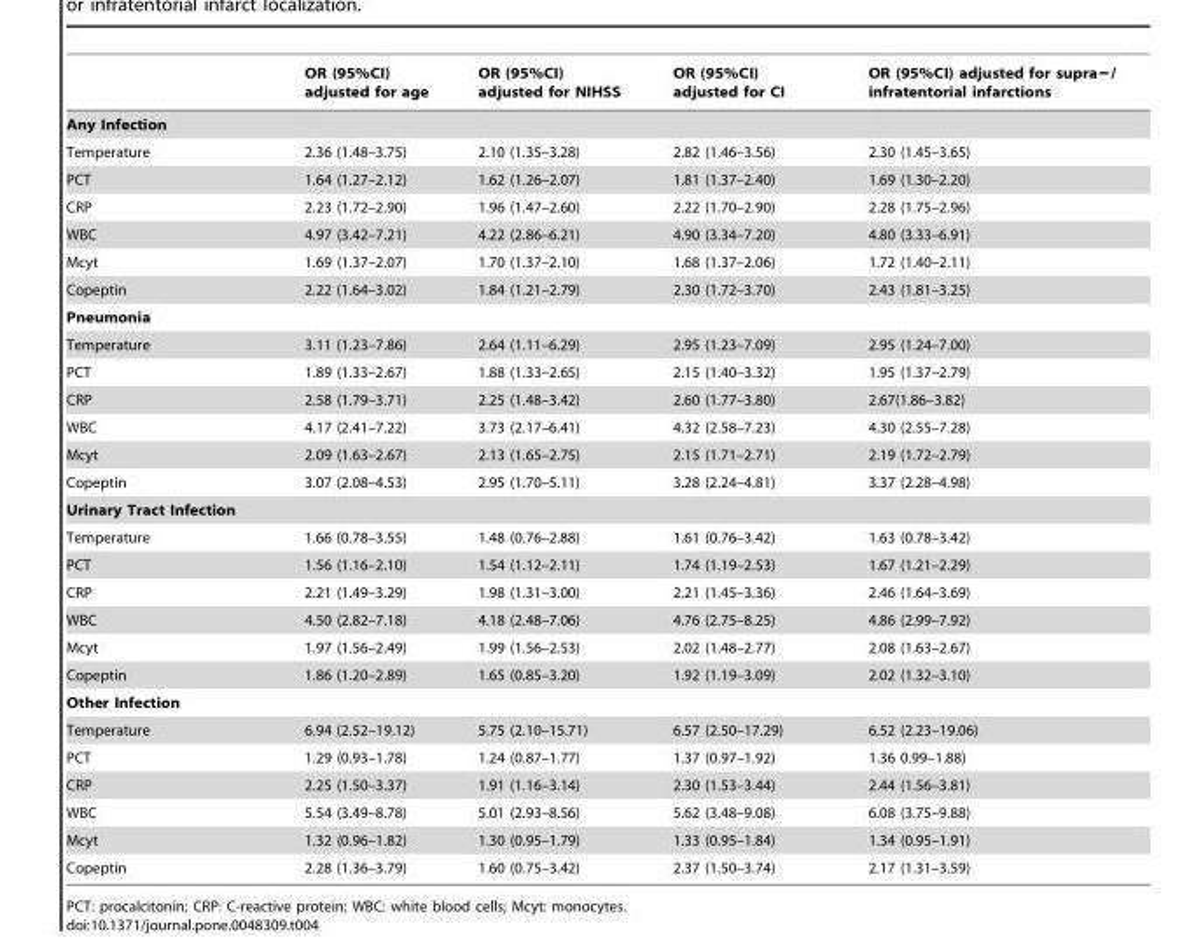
<table><thead><tr><td></td><td>OR (95%CI) adjusted for age</td><td>OR (95%CI) adjusted for NIHSS</td><td>OR (95%CI) adjusted for CI</td><td>OR (95%CI) adjusted for supra−/ infratentorial infarctions</td></tr></thead><tbody><tr><td colspan="5">Any Infection</td></tr><tr><td>Temperature</td><td>2.36 (1.48–3.75)</td><td>2.10 (1.35–3.28)</td><td>2.82 (1.46–3.56)</td><td>2.30 (1.45–3.65)</td></tr><tr><td>PCT</td><td>1.64 (1.27–2.12)</td><td>1.62 (1.26–2.07)</td><td>1.81 (1.37–2.40)</td><td>1.69 (1.30–2.20)</td></tr><tr><td>CRP</td><td>2.23 (1.72–2.90)</td><td>1.96 (1.47–2.60)</td><td>2.22 (1.70–2.90)</td><td>2.28 (1.75–2.96)</td></tr><tr><td>WBC</td><td>4.97 (3.42–7.21)</td><td>4.22 (2.86–6.21)</td><td>4.90 (3.34–7.20)</td><td>4.80 (3.33–6.91)</td></tr><tr><td>Mcyt</td><td>1.69 (1.37–2.07)</td><td>1.70 (1.37–2.10)</td><td>1.68 (1.37–2.06)</td><td>1.72 (1.40–2.11)</td></tr><tr><td>Copeptin</td><td>2.22 (1.64–3.02)</td><td>1.84 (1.21–2.79)</td><td>2.30 (1.72–3.70)</td><td>2.43 (1.81–3.25)</td></tr><tr><td colspan="5">Pneumonia</td></tr><tr><td>Temperature</td><td>3.11 (1.23–7.86)</td><td>2.64 (1.11–6.29)</td><td>2.95 (1.23–7.09)</td><td>2.95 (1.24–7.00)</td></tr><tr><td>PCT</td><td>1.89 (1.33–2.67)</td><td>1.88 (1.33–2.65)</td><td>2.15 (1.40–3.32)</td><td>1.95 (1.37–2.79)</td></tr><tr><td>CRP</td><td>2.58 (1.79–3.71)</td><td>2.25 (1.48–3.42)</td><td>2.60 (1.77–3.80)</td><td>2.67(1.86–3.82)</td></tr><tr><td>WBC</td><td>4.17 (2.41–7.22)</td><td>3.73 (2.17–6.41)</td><td>4.32 (2.58–7.23)</td><td>4.30 (2.55–7.28)</td></tr><tr><td>Mcyt</td><td>2.09 (1.63–2.67)</td><td>2.13 (1.65–2.75)</td><td>2.15 (1.71–2.71)</td><td>2.19 (1.72–2.79)</td></tr><tr><td>Copeptin</td><td>3.07 (2.08–4.53)</td><td>2.95 (1.70–5.11)</td><td>3.28 (2.24–4.81)</td><td>3.37 (2.28–4.98)</td></tr><tr><td colspan="5">Urinary Tract Infection</td></tr><tr><td>Temperature</td><td>1.66 (0.78–3.55)</td><td>1.48 (0.76–2.88)</td><td>1.61 (0.76–3.42)</td><td>1.63 (0.78–3.42)</td></tr><tr><td>PCT</td><td>1.56 (1.16–2.10)</td><td>1.54 (1.12–2.11)</td><td>1.74 (1.19–2.53)</td><td>1.67 (1.21–2.29)</td></tr><tr><td>CRP</td><td>2.21 (1.49–3.29)</td><td>1.98 (1.31–3.00)</td><td>2.21 (1.45–3.36)</td><td>2.46 (1.64–3.69)</td></tr><tr><td>WBC</td><td>4.50 (2.82–7.18)</td><td>4.18 (2.48–7.06)</td><td>4.76 (2.75–8.25)</td><td>4.86 (2.99–7.92)</td></tr><tr><td>Mcyt</td><td>1.97 (1.56–2.49)</td><td>1.99 (1.56–2.53)</td><td>2.02 (1.48–2.77)</td><td>2.08 (1.63–2.67)</td></tr><tr><td>Copeptin</td><td>1.86 (1.20–2.89)</td><td>1.65 (0.85–3.20)</td><td>1.92 (1.19–3.09)</td><td>2.02 (1.32–3.10)</td></tr><tr><td colspan="5">Other Infection</td></tr><tr><td>Temperature</td><td>6.94 (2.52–19.12)</td><td>5.75 (2.10–15.71)</td><td>6.57 (2.50–17.29)</td><td>6.52 (2.23–19.06)</td></tr><tr><td>PCT</td><td>1.29 (0.93–1.78)</td><td>1.24 (0.87–1.77)</td><td>1.37 (0.97–1.92)</td><td>1.36 0.99–1.88)</td></tr><tr><td>CRP</td><td>2.25 (1.50–3.37)</td><td>1.91 (1.16–3.14)</td><td>2.30 (1.53–3.44)</td><td>2.44 (1.56–3.81)</td></tr><tr><td>WBC</td><td>5.54 (3.49–8.78)</td><td>5.01 (2.93–8.56)</td><td>5.62 (3.48–9.08)</td><td>6.08 (3.75–9.88)</td></tr><tr><td>Mcyt</td><td>1.32 (0.96–1.82)</td><td>1.30 (0.95–1.79)</td><td>1.33 (0.95–1.84)</td><td>1.34 (0.95–1.91)</td></tr><tr><td>Copeptin</td><td>2.28 (1.36–3.79)</td><td>1.60 (0.75–3.42)</td><td>2.37 (1.50–3.74)</td><td>2.17 (1.31–3.59)</td></tr></tbody></table>